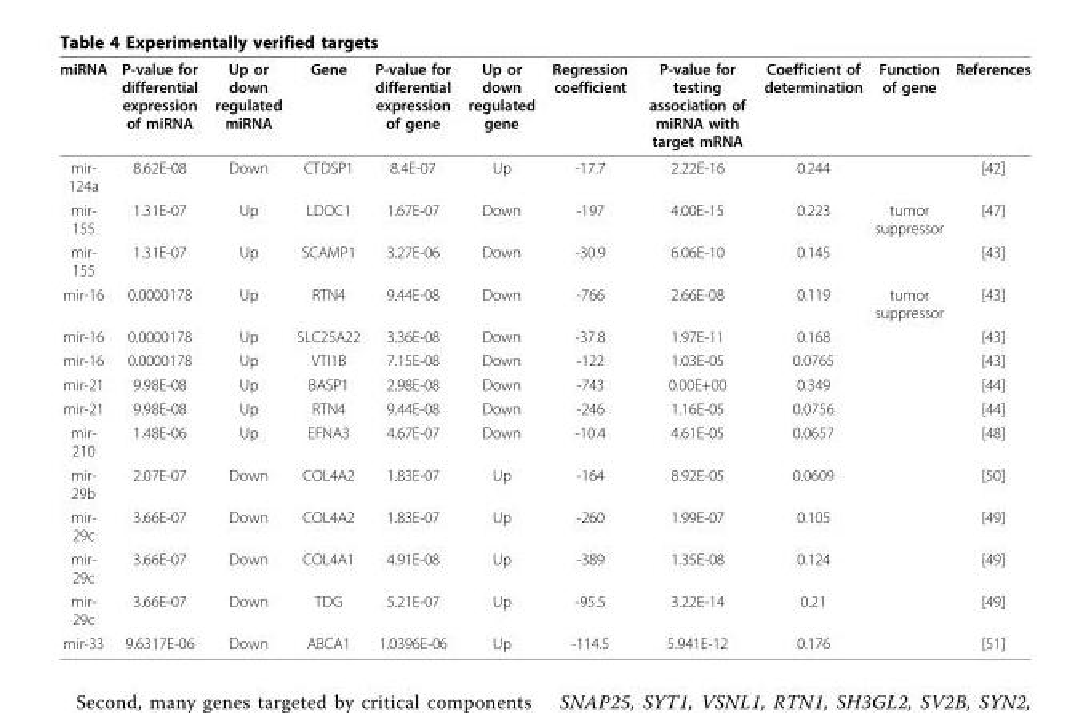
<table><thead><tr><td>miRNA</td><td>P-value for differential expression of miRNA</td><td>Up or down regulated miRNA</td><td>Gene</td><td>P-value for differential expression of gene</td><td>Up or down regulated gene</td><td>Regression coefficient</td><td>P-value for testing association of miRNA with target mRNA</td><td>Coefficient of determination</td><td>Function of gene</td><td>References</td></tr></thead><tbody><tr><td>mir- 124a</td><td>8.62E-08</td><td>Down</td><td>CTDSP1</td><td>8.4E-07</td><td>Up</td><td>-17.7</td><td>2.22E-16</td><td>0.244</td><td></td><td>[42]</td></tr><tr><td>mir- 155</td><td>1.31E-07</td><td>Up</td><td>LDOC1</td><td>1.67E-07</td><td>Down</td><td>-197</td><td>4.00E-15</td><td>0.223</td><td>tumor suppressor</td><td>[47]</td></tr><tr><td>mir- 155</td><td>1.31E-07</td><td>Up</td><td>SCAMP1</td><td>3.27E-06</td><td>Down</td><td>-30.9</td><td>6.06E-10</td><td>0.145</td><td></td><td>[43]</td></tr><tr><td>mir-16</td><td>0.0000178</td><td>Up</td><td>RTN4</td><td>9.44E-08</td><td>Down</td><td>-766</td><td>2.66E-08</td><td>0.119</td><td>tumor suppressor</td><td>[43]</td></tr><tr><td>mir-16</td><td>0.0000178</td><td>Up</td><td>SLC25A22</td><td>3.36E-08</td><td>Down</td><td>-37.8</td><td>1.97E-11</td><td>0.168</td><td></td><td>[43]</td></tr><tr><td>mir-16</td><td>0.0000178</td><td>Up</td><td>VTI1B</td><td>7.15E-08</td><td>Down</td><td>-122</td><td>1.03E-05</td><td>0.0765</td><td></td><td>[43]</td></tr><tr><td>mir-21</td><td>9.98E-08</td><td>Up</td><td>BASP1</td><td>2.98E-08</td><td>Down</td><td>-743</td><td>0.00E+00</td><td>0.349</td><td></td><td>[44]</td></tr><tr><td>mir-21</td><td>9.98E-08</td><td>Up</td><td>RTN4</td><td>9.44E-08</td><td>Down</td><td>-246</td><td>1.16E-05</td><td>0.0756</td><td></td><td>[44]</td></tr><tr><td>mir- 210</td><td>1.48E-06</td><td>Up</td><td>EFNA3</td><td>4.67E-07</td><td>Down</td><td>-10.4</td><td>4.61E-05</td><td>0.0657</td><td></td><td>[48]</td></tr><tr><td>mir- 29b</td><td>2.07E-07</td><td>Down</td><td>COL4A2</td><td>1.83E-07</td><td>Up</td><td>-164</td><td>8.92E-05</td><td>0.0609</td><td></td><td>[50]</td></tr><tr><td>mir- 29c</td><td>3.66E-07</td><td>Down</td><td>COL4A2</td><td>1.83E-07</td><td>Up</td><td>-260</td><td>1.99E-07</td><td>0.105</td><td></td><td>[49]</td></tr><tr><td>mir- 29c</td><td>3.66E-07</td><td>Down</td><td>COL4A1</td><td>4.91E-08</td><td>Up</td><td>-389</td><td>1.35E-08</td><td>0.124</td><td></td><td>[49]</td></tr><tr><td>mir- 29c</td><td>3.66E-07</td><td>Down</td><td>TDG</td><td>5.21E-07</td><td>Up</td><td>-95.5</td><td>3.22E-14</td><td>0.21</td><td></td><td>[49]</td></tr><tr><td>mir-33</td><td>9.6317E-06</td><td>Down</td><td>ABCA1</td><td>1.0396E-06</td><td>Up</td><td>-114.5</td><td>5.941E-12</td><td>0.176</td><td></td><td>[51]</td></tr></tbody></table>